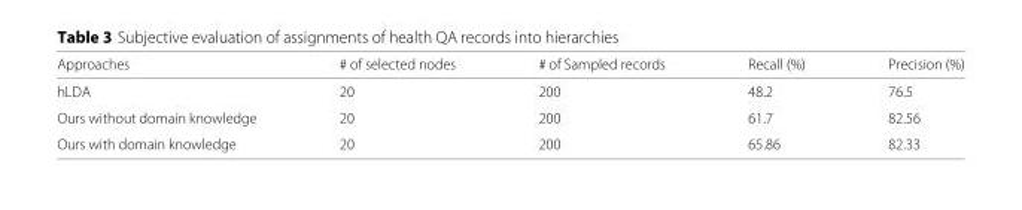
<table><thead><tr><td>Approaches</td><td># of selected nodes</td><td># of Sampled records</td><td>Recall (%)</td><td>Precision (%)</td></tr></thead><tbody><tr><td>hLDA</td><td>20</td><td>200</td><td>48.2</td><td>76.5</td></tr><tr><td>Ours without domain knowledge</td><td>20</td><td>200</td><td>61.7</td><td>82.56</td></tr><tr><td>Ours with domain knowledge</td><td>20</td><td>200</td><td>65.86</td><td>82.33</td></tr></tbody></table>